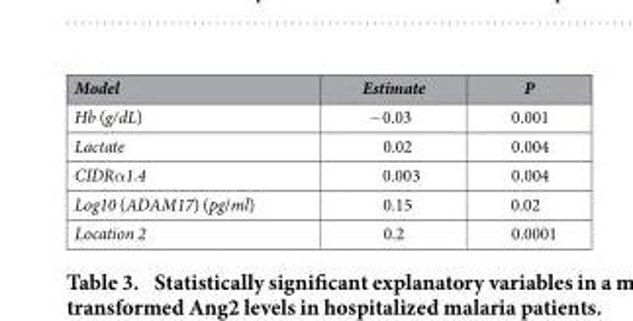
<table><thead><tr><td>Model</td><td>Estimate</td><td>P</td></tr></thead><tbody><tr><td>Hb (g/dL)</td><td>− 0.03</td><td>0.001</td></tr><tr><td>Lactate</td><td>0.02</td><td>0.004</td></tr><tr><td>CIDRα1.4</td><td>0.003</td><td>0.004</td></tr><tr><td>Log10 (ADAM17) (pg/ml)</td><td>0.15</td><td>0.02</td></tr><tr><td>Location 2</td><td>0.2</td><td>0.0001</td></tr></tbody></table>